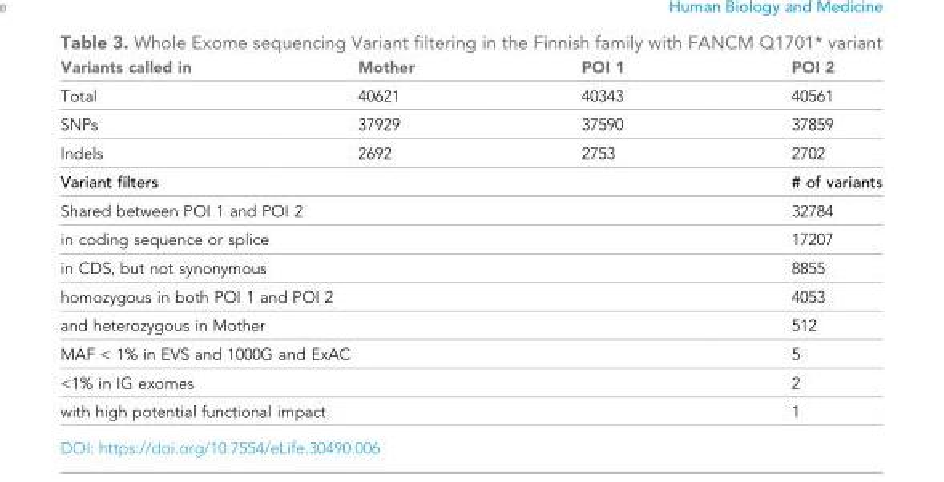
<table><thead><tr><td>Variants called in</td><td>Mother</td><td>POI 1</td><td>POI 2</td></tr></thead><tbody><tr><td>Total</td><td>40621</td><td>40343</td><td>40561</td></tr><tr><td>SNPs</td><td>37929</td><td>37590</td><td>37859</td></tr><tr><td>Indels</td><td>2692</td><td>2753</td><td>2702</td></tr><tr><td colspan="3">Variant filters</td><td># of variants</td></tr><tr><td colspan="3">Shared between POI 1 and POI 2</td><td>32784</td></tr><tr><td colspan="3">in coding sequence or splice</td><td>17207</td></tr><tr><td colspan="3">in CDS, but not synonymous</td><td>8855</td></tr><tr><td colspan="3">homozygous in both POI 1 and POI 2</td><td>4053</td></tr><tr><td colspan="3">and heterozygous in Mother</td><td>512</td></tr><tr><td colspan="3">MAF &lt; 1% in EVS and 1000G and ExAC</td><td>5</td></tr><tr><td colspan="3">&lt;1% in IG exomes</td><td>2</td></tr><tr><td colspan="3">with high potential functional impact</td><td>1</td></tr></tbody></table>